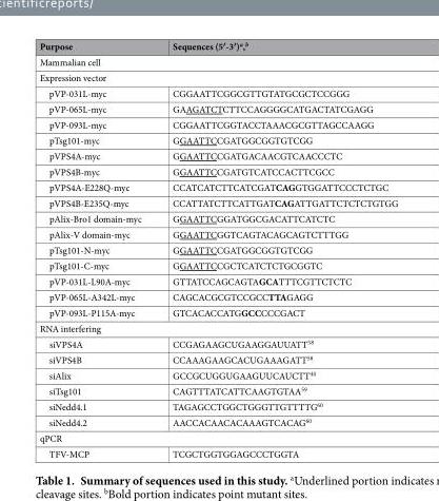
<table><thead><tr><td>Purpose</td><td>Sequences (5′-3′)<sup>a</sup>,<sup>b</sup></td></tr></thead><tbody><tr><td colspan="2">Mammalian cell</td></tr><tr><td colspan="2">Expression vector</td></tr><tr><td>pVP-031L-myc</td><td>CGGAATTCGGCGTTGTATGCGCTCCGGG</td></tr><tr><td>pVP-065L-myc</td><td>GAAGATCTCTTCCAGGGGCATGACTATCGAGG</td></tr><tr><td>pVP-093L-myc</td><td>CGGAATTCGGTACCTAAACGCGTTAGCCAAGG</td></tr><tr><td>pTsg101-myc</td><td>GGAATTCCGATGGCGGTGTCGG</td></tr><tr><td>pVPS4A-myc</td><td>GGAATTCCGATGACAACGTCAACCCTC</td></tr><tr><td>pVPS4B-myc</td><td>GGAATTCCGATGTCATCCACTTCGCC</td></tr><tr><td>pVPS4A-E228Q-myc</td><td>CCATCATCTTCATCGATCAGGTGGATTCCCTCTGC</td></tr><tr><td>pVPS4B-E235Q-myc</td><td>CCATTATCTTCATTGATCAGATTGATTCTCTCTGTGG</td></tr><tr><td>pAlix-Bro1 domain-myc</td><td>GGAATTCGGATGGCGACATTCATCTC</td></tr><tr><td>pAlix-V domain-myc</td><td>GGAATTCGGTCAGTACAGCAGTCTTTGG</td></tr><tr><td>pTsg101-N-myc</td><td>GGAATTCCGATGGCGGTGTCGG</td></tr><tr><td>pTsg101-C-myc</td><td>GGAATTCCGCTCATCTCTGCGGTC</td></tr><tr><td>pVP-031L-L90A-myc</td><td>GTTATCCAGCAGTAGCATTTCGTTCTCTC</td></tr><tr><td>pVP-065L-A342L-myc</td><td>CAGCACGCGTCCGCCTTAGAGG</td></tr><tr><td>pVP-093L-P115A-myc</td><td>GTCACACCATGGCCCCCGACT</td></tr><tr><td colspan="2">RNA interfering</td></tr><tr><td>siVPS4A</td><td>CCGAGAAGCUGAAGGAUUATT<sup>58</sup></td></tr><tr><td>siVPS4B</td><td>CCAAAGAAGCACUGAAAGATT<sup>58</sup></td></tr><tr><td>siAlix</td><td>GCCGCUGGUGAAGUUCAUCTT<sup>44</sup></td></tr><tr><td>siTsg101</td><td>CAGTTTATCATTCAAGTGTAA<sup>59</sup></td></tr><tr><td>siNedd4.1</td><td>TAGAGCCTGGCTGGGTTGTTTTG<sup>60</sup></td></tr><tr><td>siNedd4.2</td><td>AACCACAACACAAAGTCACAG<sup>60</sup></td></tr><tr><td colspan="2">qPCR</td></tr><tr><td>TFV-MCP</td><td>TCGCTGGTGGAGCCCTGGTA</td></tr></tbody></table>